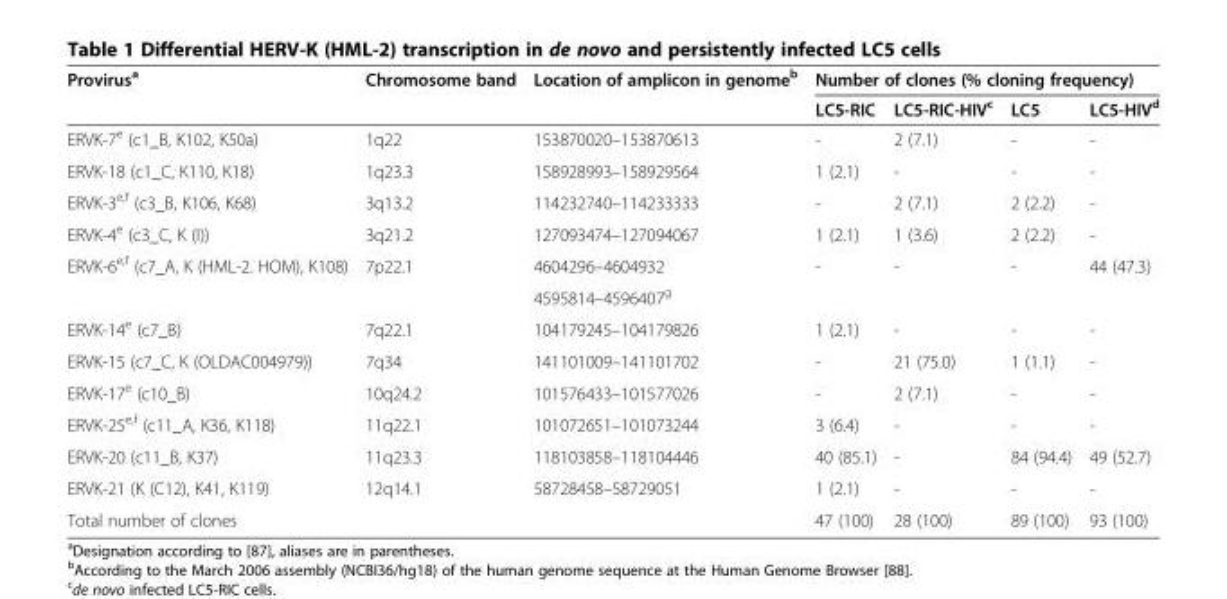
<table><thead><tr><td rowspan="2">Provirus<sup>a</sup></td><td rowspan="2">Chromosome band</td><td rowspan="2">Location of amplicon in genome<sup>b</sup></td><td colspan="4">Number of clones (% cloning frequency)</td></tr><tr><td>LC5-RIC</td><td>LC5-RIC-HIV<sup>c</sup></td><td>LC5</td><td>LC5-HIV<sup>d</sup></td></tr></thead><tbody><tr><td>ERVK-7<sup>e</sup> (c1_B, K102, K50a)</td><td>1q22</td><td>153870020–153870613</td><td>-</td><td>2 (7.1)</td><td>-</td><td>-</td></tr><tr><td>ERVK-18 (c1_C, K110, K18)</td><td>1q23.3</td><td>158928993–158929564</td><td>1 (2.1)</td><td>-</td><td>-</td><td>-</td></tr><tr><td>ERVK-3<sup>e,f</sup> (c3_B, K106, K68)</td><td>3q13.2</td><td>114232740–114233333</td><td>-</td><td>2 (7.1)</td><td>2 (2.2)</td><td>-</td></tr><tr><td>ERVK-4<sup>e</sup> (c3_C, K (I))</td><td>3q21.2</td><td>127093474–127094067</td><td>1 (2.1)</td><td>1 (3.6)</td><td>2 (2.2)</td><td>-</td></tr><tr><td rowspan="2">ERVK-6<sup>e,f</sup> (c7_A, K (HML-2. HOM), K108)</td><td rowspan="2">7p22.1</td><td>4604296–4604932</td><td>-</td><td>-</td><td>-</td><td>44 (47.3)</td></tr><tr><td>4595814–4596407<sup>g</sup></td><td></td><td></td><td></td><td></td></tr><tr><td>ERVK-14<sup>e</sup> (c7_B)</td><td>7q22.1</td><td>104179245–104179826</td><td>1 (2.1)</td><td>-</td><td>-</td><td>-</td></tr><tr><td>ERVK-15 (c7_C, K (OLDAC004979))</td><td>7q34</td><td>141101009–141101702</td><td>-</td><td>21 (75.0)</td><td>1 (1.1)</td><td>-</td></tr><tr><td>ERVK-17<sup>e</sup> (c10_B)</td><td>10q24.2</td><td>101576433–101577026</td><td>-</td><td>2 (7.1)</td><td>-</td><td>-</td></tr><tr><td>ERVK-25<sup>e,f</sup> (c11_A, K36, K118)</td><td>11q22.1</td><td>101072651–101073244</td><td>3 (6.4)</td><td>-</td><td>-</td><td>-</td></tr><tr><td>ERVK-20 (c11_B, K37)</td><td>11q23.3</td><td>118103858–118104446</td><td>40 (85.1)</td><td>-</td><td>84 (94.4)</td><td>49 (52.7)</td></tr><tr><td>ERVK-21 (K (C12), K41, K119)</td><td>12q14.1</td><td>58728458–58729051</td><td>1 (2.1)</td><td>-</td><td>-</td><td>-</td></tr><tr><td colspan="3">Total number of clones</td><td>47 (100)</td><td>28 (100)</td><td>89 (100)</td><td>93 (100)</td></tr></tbody></table>